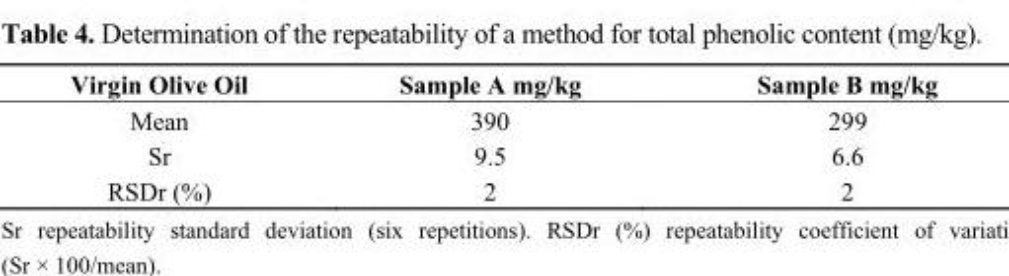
<table><thead><tr><td>Virgin Olive Oil</td><td>Sample A mg/kg</td><td>Sample B mg/kg</td></tr></thead><tbody><tr><td>Mean</td><td>390</td><td>299</td></tr><tr><td>Sr</td><td>9.5</td><td>6.6</td></tr><tr><td>RSDr (%)</td><td>2</td><td>2</td></tr></tbody></table>